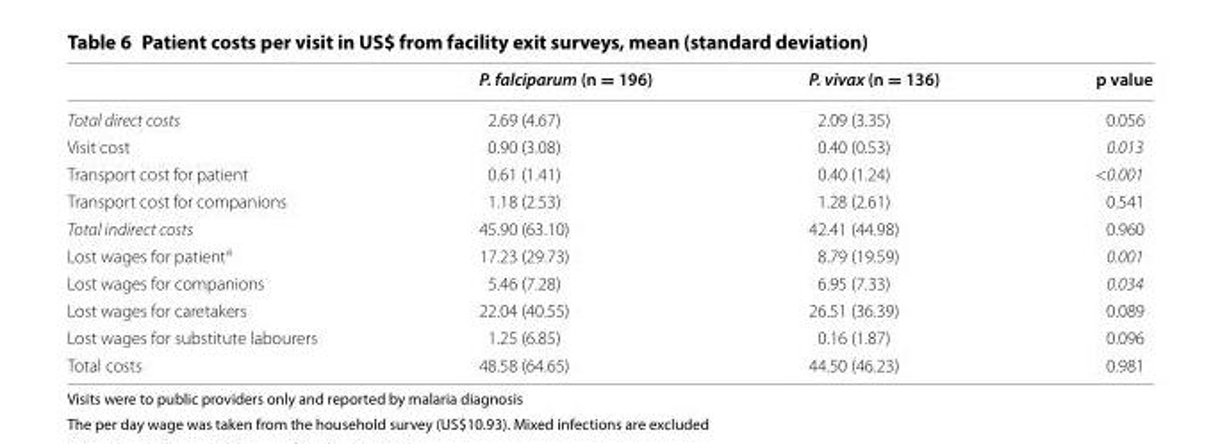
<table><thead><tr><td></td><td>P. falciparum (n = 196)</td><td>P. vivax (n = 136)</td><td>p value</td></tr></thead><tbody><tr><td>Total direct costs</td><td>2.69 (4.67)</td><td>2.09 (3.35)</td><td>0.056</td></tr><tr><td>Visit cost</td><td>0.90 (3.08)</td><td>0.40 (0.53)</td><td>0.013</td></tr><tr><td>Transport cost for patient</td><td>0.61 (1.41)</td><td>0.40 (1.24)</td><td>&lt;0.001</td></tr><tr><td>Transport cost for companions</td><td>1.18 (2.53)</td><td>1.28 (2.61)</td><td>0.541</td></tr><tr><td>Total indirect costs</td><td>45.90 (63.10)</td><td>42.41 (44.98)</td><td>0.960</td></tr><tr><td>Lost wages for patient<sup>a</sup></td><td>17.23 (29.73)</td><td>8.79 (19.59)</td><td>0.001</td></tr><tr><td>Lost wages for companions</td><td>5.46 (7.28)</td><td>6.95 (7.33)</td><td>0.034</td></tr><tr><td>Lost wages for caretakers</td><td>22.04 (40.55)</td><td>26.51 (36.39)</td><td>0.089</td></tr><tr><td>Lost wages for substitute labourers</td><td>1.25 (6.85)</td><td>0.16 (1.87)</td><td>0.096</td></tr><tr><td>Total costs</td><td>48.58 (64.65)</td><td>44.50 (46.23)</td><td>0.981</td></tr></tbody></table>